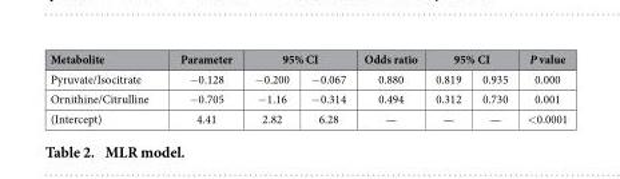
<table><thead><tr><td rowspan="2">Metabolite Pyruvate/Isocitrate</td><td rowspan="2">Parameter − 0.128</td><td colspan="2">95% CI</td><td rowspan="2">Odds ratio 0.880</td><td colspan="2">95% CI</td><td rowspan="2">P value 0.000</td></tr><tr><td>− 0.200</td><td>− 0.067</td><td>0.819</td><td>0.935</td></tr></thead><tbody><tr><td>Ornithine/Citrulline</td><td>− 0.705</td><td>− 1.16</td><td>− 0.314</td><td>0.494</td><td>0.312</td><td>0.730</td><td>0.001</td></tr><tr><td>(Intercept)</td><td>4.41</td><td>2.82</td><td>6.28</td><td>—</td><td>—</td><td>—</td><td>&lt; 0.0001</td></tr></tbody></table>